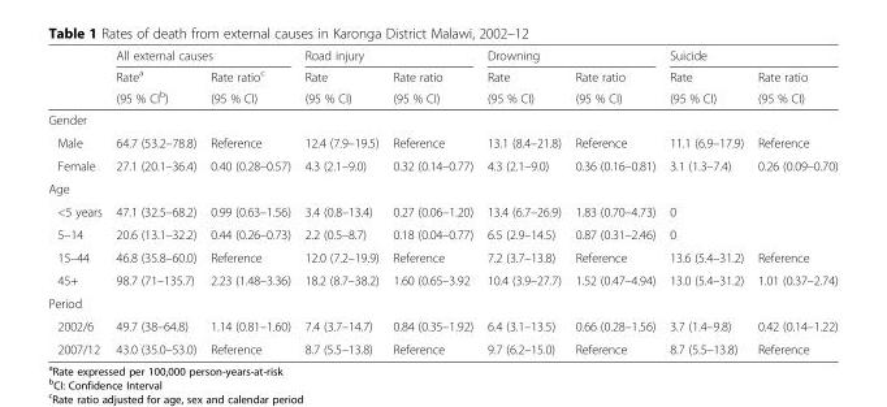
<table><thead><tr><td rowspan="3"></td><td colspan="2">All external causes</td><td colspan="2">Road injury</td><td colspan="2">Drowning</td><td colspan="2">Suicide</td></tr><tr><td rowspan="2">Rate<sup>a</sup> (95 % CI<sup>b</sup>)</td><td rowspan="2">Rate ratio<sup>c</sup> (95 % CI)</td><td rowspan="2">Rate (95 % CI)</td><td rowspan="2">Rate ratio (95 % CI)</td><td rowspan="2">Rate (95 % CI)</td><td rowspan="2">Rate ratio (95 % CI)</td><td rowspan="2">Rate (95 % CI)</td><td rowspan="2">Rate ratio (95 % CI)</td></tr><tr></tr></thead><tbody><tr><td colspan="9">Gender</td></tr><tr><td>Male</td><td>64.7 (53.2–78.8)</td><td>Reference</td><td>12.4 (7.9–19.5)</td><td>Reference</td><td>13.1 (8.4–21.8)</td><td>Reference</td><td>11.1 (6.9–17.9)</td><td>Reference</td></tr><tr><td>Female</td><td>27.1 (20.1–36.4)</td><td>0.40 (0.28–0.57)</td><td>4.3 (2.1–9.0)</td><td>0.32 (0.14–0.77)</td><td>4.3 (2.1–9.0)</td><td>0.36 (0.16–0.81)</td><td>3.1 (1.3–7.4)</td><td>0.26 (0.09–0.70)</td></tr><tr><td colspan="9">Age</td></tr><tr><td>&lt;5 years</td><td>47.1 (32.5–68.2)</td><td>0.99 (0.63–1.56)</td><td>3.4 (0.8–13.4)</td><td>0.27 (0.06–1.20)</td><td>13.4 (6.7–26.9)</td><td>1.83 (0.70–4.73)</td><td>0</td><td></td></tr><tr><td>5–14</td><td>20.6 (13.1–32.2)</td><td>0.44 (0.26–0.73)</td><td>2.2 (0.5–8.7)</td><td>0.18 (0.04–0.77)</td><td>6.5 (2.9–14.5)</td><td>0.87 (0.31–2.46)</td><td>0</td><td></td></tr><tr><td>15–44</td><td>46.8 (35.8–60.0)</td><td>Reference</td><td>12.0 (7.2–19.9)</td><td>Reference</td><td>7.2 (3.7–13.8)</td><td>Reference</td><td>13.6 (5.4–31.2)</td><td>Reference</td></tr><tr><td>45+</td><td>98.7 (71–135.7)</td><td>2.23 (1.48–3.36)</td><td>18.2 (8.7–38.2)</td><td>1.60 (0.65–3.92</td><td>10.4 (3.9–27.7)</td><td>1.52 (0.47–4.94)</td><td>13.0 (5.4–31.2)</td><td>1.01 (0.37–2.74)</td></tr><tr><td colspan="9">Period</td></tr><tr><td>2002/6</td><td>49.7 (38–64.8)</td><td>1.14 (0.81–1.60)</td><td>7.4 (3.7–14.7)</td><td>0.84 (0.35–1.92)</td><td>6.4 (3.1–13.5)</td><td>0.66 (0.28–1.56)</td><td>3.7 (1.4–9.8)</td><td>0.42 (0.14–1.22)</td></tr><tr><td>2007/12</td><td>43.0 (35.0–53.0)</td><td>Reference</td><td>8.7 (5.5–13.8)</td><td>Reference</td><td>9.7 (6.2–15.0)</td><td>Reference</td><td>8.7 (5.5–13.8)</td><td>Reference</td></tr></tbody></table>